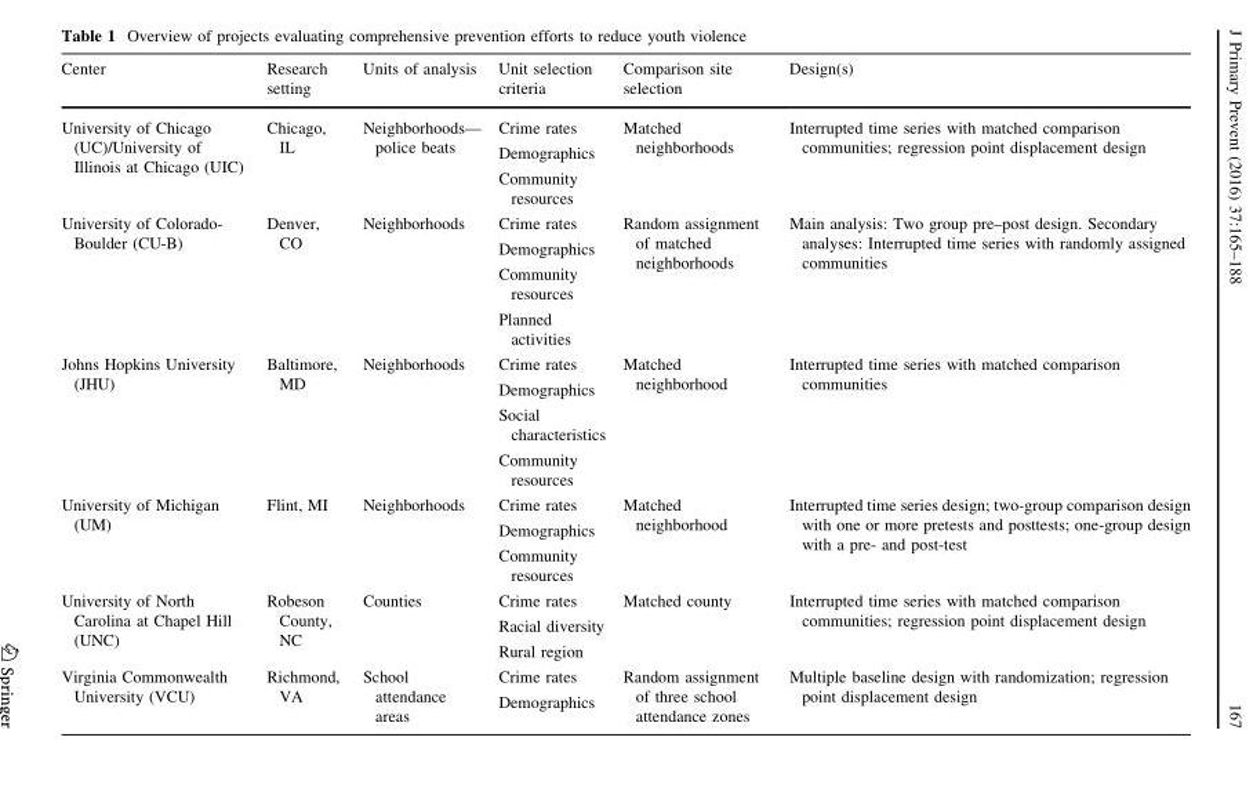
<table><thead><tr><td>Center</td><td>Research setting</td><td>Units of analysis</td><td>Unit selection criteria</td><td>Comparison site selection</td><td>Design(s)</td></tr></thead><tbody><tr><td>University of Chicago (UC)/University of Illinois at Chicago (UIC)</td><td>Chicago, IL</td><td>Neighborhoods— police beats</td><td>Crime rates Demographics Community resources</td><td>Matched neighborhoods</td><td>Interrupted time series with matched comparison communities; regression point displacement design</td></tr><tr><td>University of Colorado- Boulder (CU-B)</td><td>Denver, CO</td><td>Neighborhoods</td><td>Crime rates Demographics Community resources Planned activities</td><td>Random assignment of matched neighborhoods</td><td>Main analysis: Two group pre–post design. Secondary analyses: Interrupted time series with randomly assigned communities</td></tr><tr><td>Johns Hopkins University (JHU)</td><td>Baltimore, MD</td><td>Neighborhoods</td><td>Crime rates Demographics Social characteristics Community resources</td><td>Matched neighborhood</td><td>Interrupted time series with matched comparison communities</td></tr><tr><td>University of Michigan (UM)</td><td>Flint, MI</td><td>Neighborhoods</td><td>Crime rates Demographics Community resources</td><td>Matched neighborhood</td><td>Interrupted time series design; two-group comparison design with one or more pretests and posttests; one-group design with a pre- and post-test</td></tr><tr><td>University of North Carolina at Chapel Hill (UNC)</td><td>Robeson County, NC</td><td>Counties</td><td>Crime rates Racial diversity Rural region</td><td>Matched county</td><td>Interrupted time series with matched comparison communities; regression point displacement design</td></tr><tr><td>Virginia Commonwealth University (VCU)</td><td>Richmond, VA</td><td>School attendance areas</td><td>Crime rates Demographics</td><td>Random assignment of three school attendance zones</td><td>Multiple baseline design with randomization; regression point displacement design</td></tr></tbody></table>